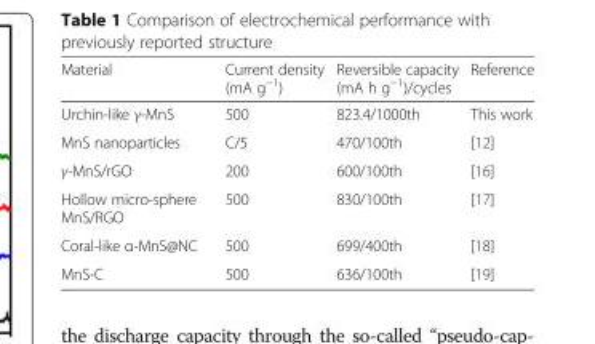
<table><thead><tr><td>Material</td><td>Current density (mA g<sup>−1</sup>)</td><td>Reversible capacity (mA h g<sup>−1</sup>)/cycles</td><td>Reference</td></tr></thead><tbody><tr><td>Urchin-like γ-MnS</td><td>500</td><td>823.4/1000th</td><td>This work</td></tr><tr><td>MnS nanoparticles</td><td>C/5</td><td>470/100th</td><td>[12]</td></tr><tr><td>γ-MnS/rGO</td><td>200</td><td>600/100th</td><td>[16]</td></tr><tr><td>Hollow micro-sphere MnS/RGO</td><td>500</td><td>830/100th</td><td>[17]</td></tr><tr><td>Coral-like α-MnS@NC</td><td>500</td><td>699/400th</td><td>[18]</td></tr><tr><td>MnS-C</td><td>500</td><td>636/100th</td><td>[19]</td></tr></tbody></table>